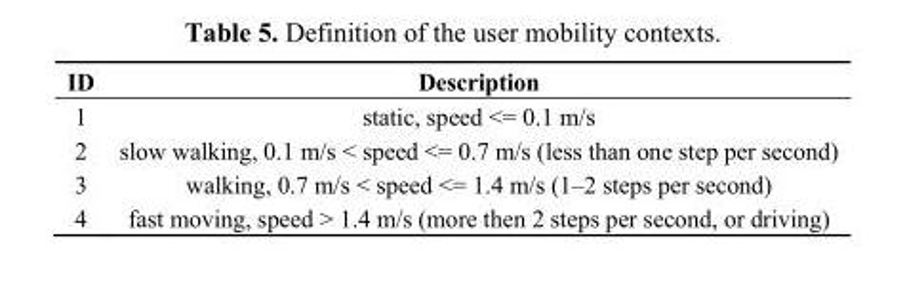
<table><thead><tr><td>ID</td><td>Description</td></tr></thead><tbody><tr><td>1</td><td>static, speed &lt;= 0.1 m/s</td></tr><tr><td>2</td><td>slow walking, 0.1 m/s &lt; speed &lt;= 0.7 m/s (less than one step per second)</td></tr><tr><td>3</td><td>walking, 0.7 m/s &lt; speed &lt;= 1.4 m/s (1–2 steps per second)</td></tr><tr><td>4</td><td>fast moving, speed &gt; 1.4 m/s (more then 2 steps per second, or driving)</td></tr></tbody></table>